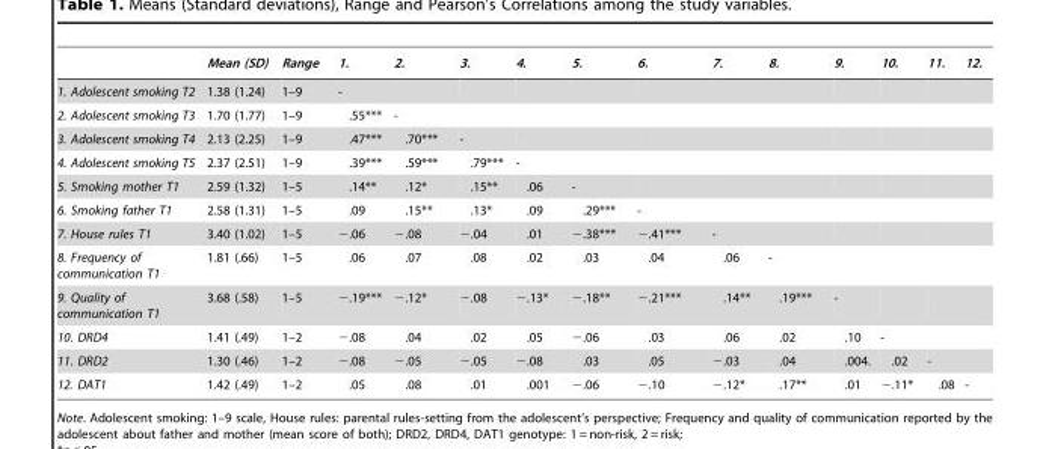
<table><thead><tr><td></td><td>Mean (SD)</td><td>Range</td><td>1.</td><td>2.</td><td>3.</td><td>4.</td><td>5.</td><td>6.</td><td>7.</td><td>8.</td><td>9.</td><td>10.</td><td>11.</td><td>12.</td></tr></thead><tbody><tr><td>1. Adolescent smoking T2</td><td>1.38 (1.24)</td><td>1–9</td><td>-</td><td></td><td></td><td></td><td></td><td></td><td></td><td></td><td></td><td></td><td></td><td></td></tr><tr><td>2. Adolescent smoking T3</td><td>1.70 (1.77)</td><td>1–9</td><td>.55***</td><td>-</td><td></td><td></td><td></td><td></td><td></td><td></td><td></td><td></td><td></td><td></td></tr><tr><td>3. Adolescent smoking T4</td><td>2.13 (2.25)</td><td>1–9</td><td>.47***</td><td>.70***</td><td>-</td><td></td><td></td><td></td><td></td><td></td><td></td><td></td><td></td><td></td></tr><tr><td>4. Adolescent smoking T5</td><td>2.37 (2.51)</td><td>1–9</td><td>.39***</td><td>.59***</td><td>.79***</td><td>-</td><td></td><td></td><td></td><td></td><td></td><td></td><td></td><td></td></tr><tr><td>5. Smoking mother T1</td><td>2.59 (1.32)</td><td>1–5</td><td>.14**</td><td>.12*</td><td>.15**</td><td>.06</td><td>-</td><td></td><td></td><td></td><td></td><td></td><td></td><td></td></tr><tr><td>6. Smoking father T1</td><td>2.58 (1.31)</td><td>1–5</td><td>.09</td><td>.15**</td><td>.13*</td><td>.09</td><td>.29***</td><td>-</td><td></td><td></td><td></td><td></td><td></td><td></td></tr><tr><td>7. House rules T1</td><td>3.40 (1.02)</td><td>1–5</td><td>−.06</td><td>−.08</td><td>−.04</td><td>.01</td><td>−.38***</td><td>−.41***</td><td>-</td><td></td><td></td><td></td><td></td><td></td></tr><tr><td>8. Frequency of communication T1</td><td>1.81 (.66)</td><td>1–5</td><td>.06</td><td>.07</td><td>.08</td><td>.02</td><td>.03</td><td>.04</td><td>.06</td><td>-</td><td></td><td></td><td></td><td></td></tr><tr><td>9. Quality of communication T1</td><td>3.68 (.58)</td><td>1–5</td><td>−.19***</td><td>−.12*</td><td>−.08</td><td>−.13*</td><td>−.18**</td><td>−.21***</td><td>.14**</td><td>.19***</td><td>-</td><td></td><td></td><td></td></tr><tr><td>10. DRD4</td><td>1.41 (.49)</td><td>1–2</td><td>−.08</td><td>.04</td><td>.02</td><td>.05</td><td>−.06</td><td>.03</td><td>.06</td><td>.02</td><td>.10</td><td>-</td><td></td><td></td></tr><tr><td>11. DRD2</td><td>1.30 (.46)</td><td>1–2</td><td>−.08</td><td>−.05</td><td>−.05</td><td>−.08</td><td>.03</td><td>.05</td><td>−.03</td><td>.04</td><td>.004.</td><td>.02</td><td>-</td><td></td></tr><tr><td>12. DAT1</td><td>1.42 (.49)</td><td>1–2</td><td>.05</td><td>.08</td><td>.01</td><td>.001</td><td>−.06</td><td>−.10</td><td>−.12*</td><td>.17**</td><td>.01</td><td>−.11*</td><td>.08</td><td>-</td></tr></tbody></table>